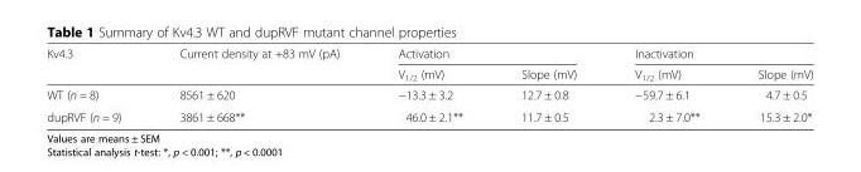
<table><thead><tr><td rowspan="2">Kv4.3</td><td rowspan="2">Current density at +83 mV (pA)</td><td colspan="2">Activation</td><td colspan="2">Inactivation</td></tr><tr><td>V<sub>1/2</sub> (mV)</td><td>Slope (mV)</td><td>V<sub>1/2</sub> (mV)</td><td>Slope (mV)</td></tr></thead><tbody><tr><td>WT (n = 8)</td><td>8561 ± 620</td><td>−13.3 ± 3.2</td><td>12.7 ± 0.8</td><td>−59.7 ± 6.1</td><td>4.7 ± 0.5</td></tr><tr><td>dupRVF (n = 9)</td><td>3861 ± 668**</td><td>46.0 ± 2.1**</td><td>11.7 ± 0.5</td><td>2.3 ± 7.0**</td><td>15.3 ± 2.0*</td></tr></tbody></table>